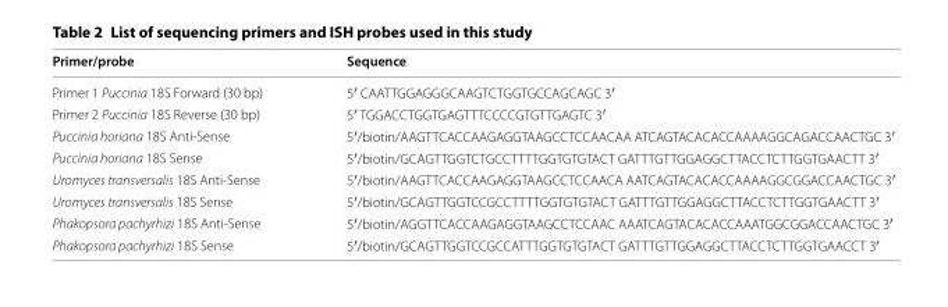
<table><thead><tr><td>Primer/probe</td><td>Sequence</td></tr></thead><tbody><tr><td>Primer 1 Puccinia 18S Forward (30 bp)</td><td>5′ CAATTGGAGGGCAAGTCTGGTGCCAGCAGC 3′</td></tr><tr><td>Primer 2 Puccinia 18S Reverse (30 bp)</td><td>5′ TGGACCTGGTGAGTTTCCCCGTGTTGAGTC 3′</td></tr><tr><td>Puccinia horiana 18S Anti-Sense</td><td>5′/biotin/AAGTTCACCAAGAGGTAAGCCTCCAACAA ATCAGTACACACCAAAAGGCAGACCAACTGC 3′</td></tr><tr><td>Puccinia horiana 18S Sense</td><td>5′/biotin/GCAGTTGGTCTGCCTTTTGGTGTGTACT GATTTGTTGGAGGCTTACCTCTTGGTGAACTT 3′</td></tr><tr><td>Uromyces transversalis 18S Anti-Sense</td><td>5′/biotin/AAGTTCACCAAGAGGTAAGCCTCCAACA AATCAGTACACACCAAAAGGCGGACCAACTGC 3′</td></tr><tr><td>Uromyces transversalis 18S Sense</td><td>5′/biotin/GCAGTTGGTCCGCCTTTTGGTGTGTACT GATTTGTTGGAGGCTTACCTCTTGGTGAACTT 3′</td></tr><tr><td>Phakopsora pachyrhizi 18S Anti-Sense</td><td>5′/biotin/AGGTTCACCAAGAGGTAAGCCTCCAAC AAATCAGTACACACCAAATGGCGGACCAACTGC 3′</td></tr><tr><td>Phakopsora pachyrhizi 18S Sense</td><td>5′/biotin/GCAGTTGGTCCGCCATTTGGTGTGTACT GATTTGTTGGAGGCTTACCTCTTGGTGAACCT 3′</td></tr></tbody></table>